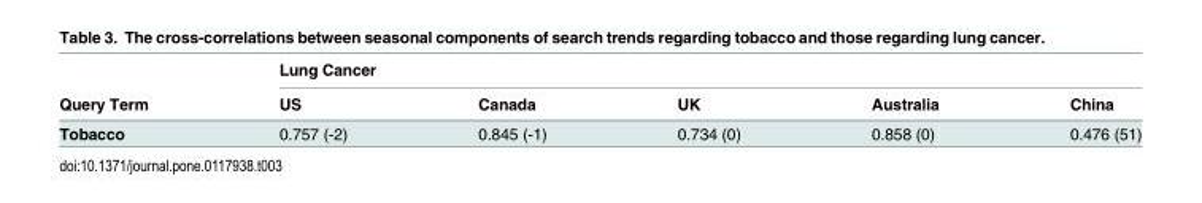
<table><thead><tr><td rowspan="2">Query Term</td><td colspan="5">Lung Cancer</td></tr><tr><td>US</td><td>Canada</td><td>UK</td><td>Australia</td><td>China</td></tr></thead><tbody><tr><td>Tobacco</td><td>0.757 (-2)</td><td>0.845 (-1)</td><td>0.734 (0)</td><td>0.858 (0)</td><td>0.476 (51)</td></tr></tbody></table>